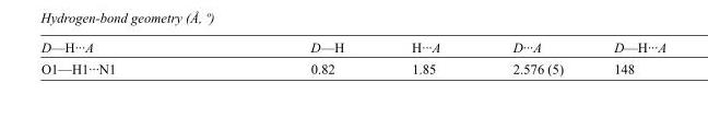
<table><tbody><tr><td>D—H···A</td><td>D—H</td><td>H···A</td><td>D···A</td><td>D—H···A</td></tr><tr><td>O1—H1···N1</td><td>0.82</td><td>1.85</td><td>2.576 (5)</td><td>148</td></tr></tbody></table>